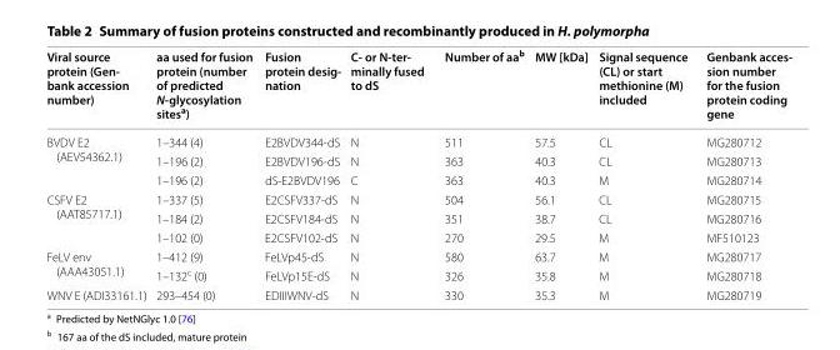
<table><thead><tr><td>Viral source protein (Gen‑ bank accession number)</td><td>aa used for fusion protein (number of predicted N‑glycosylation sites<sup>a</sup>)</td><td>Fusion protein desig‑ nation</td><td>C‑ or N‑ter‑ minally fused to dS</td><td>Number of aa<sup>b</sup></td><td>MW [kDa]</td><td>Signal sequence (CL) or start methionine (M) included</td><td>Genbank acces‑ sion number for the fusion protein coding gene</td></tr></thead><tbody><tr><td rowspan="3">BVDV E2 (AEV54362.1)</td><td>1–344 (4)</td><td>E2BVDV344‑dS</td><td>N</td><td>511</td><td>57.5</td><td>CL</td><td>MG280712</td></tr><tr><td>1–196 (2)</td><td>E2BVDV196‑dS</td><td>N</td><td>363</td><td>40.3</td><td>CL</td><td>MG280713</td></tr><tr><td>1–196 (2)</td><td>dS‑E2BVDV196</td><td>C</td><td>363</td><td>40.3</td><td>M</td><td>MG280714</td></tr><tr><td rowspan="3">CSFV E2 (AAT85717.1)</td><td>1–337 (5)</td><td>E2CSFV337‑dS</td><td>N</td><td>504</td><td>56.1</td><td>CL</td><td>MG280715</td></tr><tr><td>1–184 (2)</td><td>E2CSFV184‑dS</td><td>N</td><td>351</td><td>38.7</td><td>CL</td><td>MG280716</td></tr><tr><td>1–102 (0)</td><td>E2CSFV102‑dS</td><td>N</td><td>270</td><td>29.5</td><td>M</td><td>MF510123</td></tr><tr><td rowspan="2">FeLV env (AAA43051.1)</td><td>1–412 (9)</td><td>FeLVp45‑dS</td><td>N</td><td>580</td><td>63.7</td><td>M</td><td>MG280717</td></tr><tr><td>1–132<sup>c</sup> (0)</td><td>FeLVp15E‑dS</td><td>N</td><td>326</td><td>35.8</td><td>M</td><td>MG280718</td></tr><tr><td>WNV E (ADI33161.1)</td><td>293–454 (0)</td><td>EDIIIWNV‑dS</td><td>N</td><td>330</td><td>35.3</td><td>M</td><td>MG280719</td></tr></tbody></table>